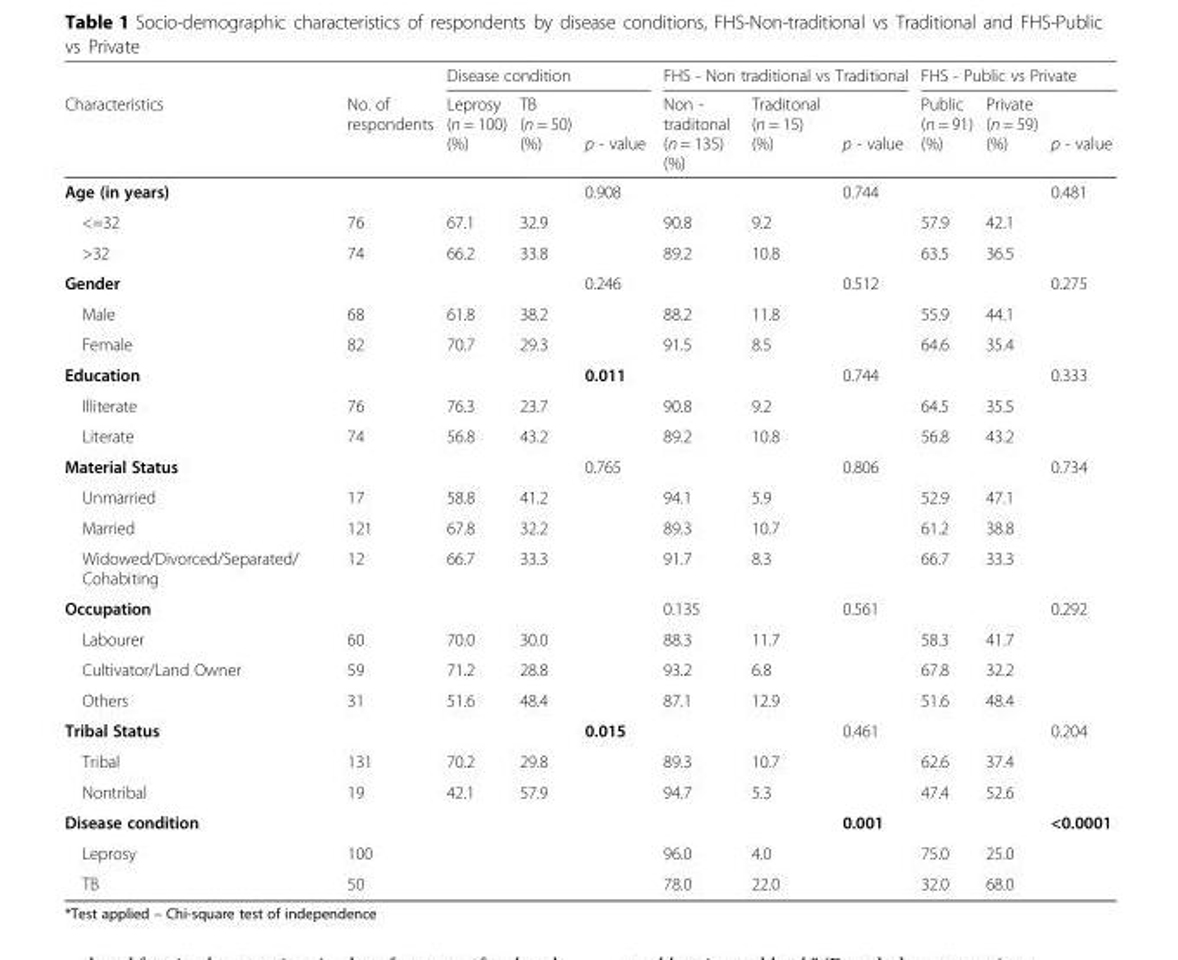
<table><thead><tr><td rowspan="2">Characteristics</td><td rowspan="2">No. of respondents</td><td colspan="3">Disease condition</td><td colspan="3">FHS - Non traditional vs Traditional</td><td colspan="3">FHS - Public vs Private</td></tr><tr><td>Leprosy (n = 100) (%)</td><td>TB (n = 50) (%)</td><td>p - value</td><td>Non - traditonal (n = 135) (%)</td><td>Traditonal (n = 15) (%)</td><td>p - value</td><td>Public (n = 91) (%)</td><td>Private (n = 59) (%)</td><td>p - value</td></tr></thead><tbody><tr><td>Age (in years)</td><td></td><td></td><td></td><td>0.908</td><td></td><td></td><td>0.744</td><td></td><td></td><td>0.481</td></tr><tr><td>&lt;=32</td><td>76</td><td>67.1</td><td>32.9</td><td></td><td>90.8</td><td>9.2</td><td></td><td>57.9</td><td>42.1</td><td></td></tr><tr><td>&gt;32</td><td>74</td><td>66.2</td><td>33.8</td><td></td><td>89.2</td><td>10.8</td><td></td><td>63.5</td><td>36.5</td><td></td></tr><tr><td>Gender</td><td></td><td></td><td></td><td>0.246</td><td></td><td></td><td>0.512</td><td></td><td></td><td>0.275</td></tr><tr><td>Male</td><td>68</td><td>61.8</td><td>38.2</td><td></td><td>88.2</td><td>11.8</td><td></td><td>55.9</td><td>44.1</td><td></td></tr><tr><td>Female</td><td>82</td><td>70.7</td><td>29.3</td><td></td><td>91.5</td><td>8.5</td><td></td><td>64.6</td><td>35.4</td><td></td></tr><tr><td>Education</td><td></td><td></td><td></td><td>0.011</td><td></td><td></td><td>0.744</td><td></td><td></td><td>0.333</td></tr><tr><td>Illiterate</td><td>76</td><td>76.3</td><td>23.7</td><td></td><td>90.8</td><td>9.2</td><td></td><td>64.5</td><td>35.5</td><td></td></tr><tr><td>Literate</td><td>74</td><td>56.8</td><td>43.2</td><td></td><td>89.2</td><td>10.8</td><td></td><td>56.8</td><td>43.2</td><td></td></tr><tr><td>Material Status</td><td></td><td></td><td></td><td>0.765</td><td></td><td></td><td>0.806</td><td></td><td></td><td>0.734</td></tr><tr><td>Unmarried</td><td>17</td><td>58.8</td><td>41.2</td><td></td><td>94.1</td><td>5.9</td><td></td><td>52.9</td><td>47.1</td><td></td></tr><tr><td>Married</td><td>121</td><td>67.8</td><td>32.2</td><td></td><td>89.3</td><td>10.7</td><td></td><td>61.2</td><td>38.8</td><td></td></tr><tr><td>Widowed/Divorced/Separated/ Cohabiting</td><td>12</td><td>66.7</td><td>33.3</td><td></td><td>91.7</td><td>8.3</td><td></td><td>66.7</td><td>33.3</td><td></td></tr><tr><td>Occupation</td><td></td><td></td><td></td><td></td><td>0.135</td><td></td><td>0.561</td><td></td><td></td><td>0.292</td></tr><tr><td>Labourer</td><td>60</td><td>70.0</td><td>30.0</td><td></td><td>88.3</td><td>11.7</td><td></td><td>58.3</td><td>41.7</td><td></td></tr><tr><td>Cultivator/Land Owner</td><td>59</td><td>71.2</td><td>28.8</td><td></td><td>93.2</td><td>6.8</td><td></td><td>67.8</td><td>32.2</td><td></td></tr><tr><td>Others</td><td>31</td><td>51.6</td><td>48.4</td><td></td><td>87.1</td><td>12.9</td><td></td><td>51.6</td><td>48.4</td><td></td></tr><tr><td>Tribal Status</td><td></td><td></td><td></td><td>0.015</td><td></td><td></td><td>0.461</td><td></td><td></td><td>0.204</td></tr><tr><td>Tribal</td><td>131</td><td>70.2</td><td>29.8</td><td></td><td>89.3</td><td>10.7</td><td></td><td>62.6</td><td>37.4</td><td></td></tr><tr><td>Nontribal</td><td>19</td><td>42.1</td><td>57.9</td><td></td><td>94.7</td><td>5.3</td><td></td><td>47.4</td><td>52.6</td><td></td></tr><tr><td>Disease condition</td><td></td><td></td><td></td><td></td><td></td><td></td><td>0.001</td><td></td><td></td><td>&lt;0.0001</td></tr><tr><td>Leprosy</td><td>100</td><td></td><td></td><td></td><td>96.0</td><td>4.0</td><td></td><td>75.0</td><td>25.0</td><td></td></tr><tr><td>TB</td><td>50</td><td></td><td></td><td></td><td>78.0</td><td>22.0</td><td></td><td>32.0</td><td>68.0</td><td></td></tr></tbody></table>